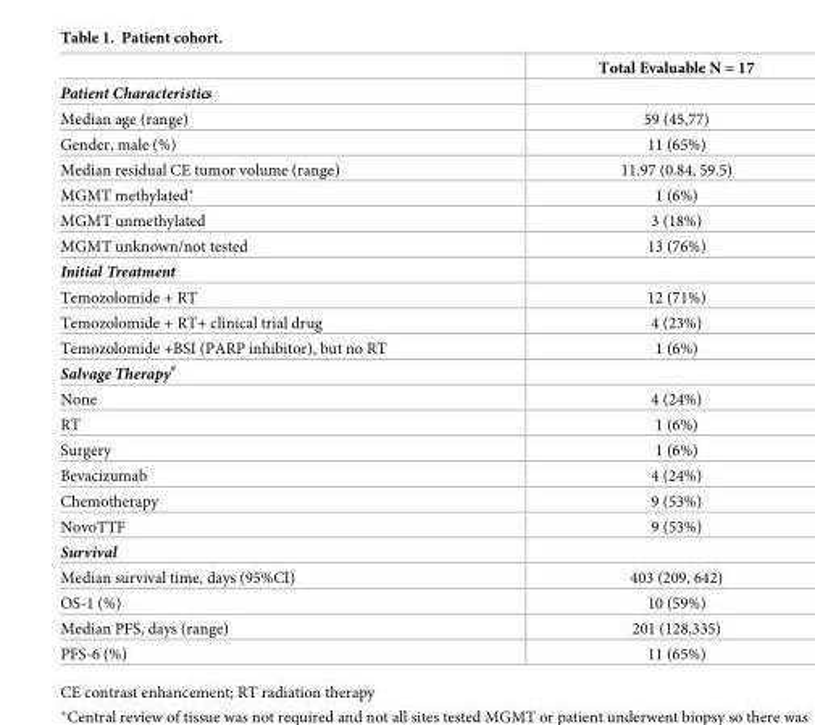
<table><thead><tr><td></td><td>Total Evaluable N = 17</td></tr></thead><tbody><tr><td colspan="2">Patient Characteristics</td></tr><tr><td>Median age (range)</td><td>59 (45,77)</td></tr><tr><td>Gender, male (%)</td><td>11 (65%)</td></tr><tr><td>Median residual CE tumor volume (range)</td><td>11.97 (0.84, 59.5)</td></tr><tr><td>MGMT methylated*</td><td>1 (6%)</td></tr><tr><td>MGMT unmethylated</td><td>3 (18%)</td></tr><tr><td>MGMT unknown/not tested</td><td>13 (76%)</td></tr><tr><td colspan="2">Initial Treatment</td></tr><tr><td>Temozolomide + RT</td><td>12 (71%)</td></tr><tr><td>Temozolomide + RT+ clinical trial drug</td><td>4 (23%)</td></tr><tr><td>Temozolomide +BSI (PARP inhibitor), but no RT</td><td>1 (6%)</td></tr><tr><td colspan="2">Salvage Therapy<sup>#</sup></td></tr><tr><td>None</td><td>4 (24%)</td></tr><tr><td>RT</td><td>1 (6%)</td></tr><tr><td>Surgery</td><td>1 (6%)</td></tr><tr><td>Bevacizumab</td><td>4 (24%)</td></tr><tr><td>Chemotherapy</td><td>9 (53%)</td></tr><tr><td>NovoTTF</td><td>9 (53%)</td></tr><tr><td colspan="2">Survival</td></tr><tr><td>Median survival time, days (95%CI)</td><td>403 (209, 642)</td></tr><tr><td>OS-1 (%)</td><td>10 (59%)</td></tr><tr><td>Median PFS, days (range)</td><td>201 (128,335)</td></tr><tr><td>PFS-6 (%)</td><td>11 (65%)</td></tr></tbody></table>